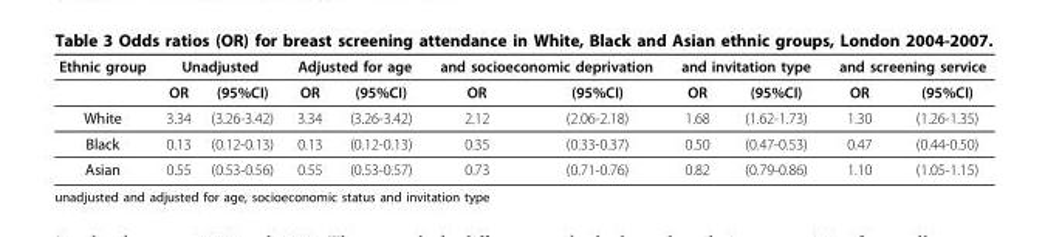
<table><thead><tr><td rowspan="2">Ethnic group</td><td colspan="2">Unadjusted</td><td colspan="2">Adjusted for age</td><td colspan="2">and socioeconomic deprivation</td><td colspan="2">and invitation type</td><td colspan="2">and screening service</td></tr><tr><td>OR</td><td>(95%CI)</td><td>OR</td><td>(95%CI)</td><td>OR</td><td>(95%CI)</td><td>OR</td><td>(95%CI)</td><td>OR</td><td>(95%CI)</td></tr></thead><tbody><tr><td>White</td><td>3.34</td><td>(3.26-3.42)</td><td>3.34</td><td>(3.26-3.42)</td><td>2.12</td><td>(2.06-2.18)</td><td>1.68</td><td>(1.62-1.73)</td><td>1.30</td><td>(1.26-1.35)</td></tr><tr><td>Black</td><td>0.13</td><td>(0.12-0.13)</td><td>0.13</td><td>(0.12-0.13)</td><td>0.35</td><td>(0.33-0.37)</td><td>0.50</td><td>(0.47-0.53)</td><td>0.47</td><td>(0.44-0.50)</td></tr><tr><td>Asian</td><td>0.55</td><td>(0.53-0.56)</td><td>0.55</td><td>(0.53-0.57)</td><td>0.73</td><td>(0.71-0.76)</td><td>0.82</td><td>(0.79-0.86)</td><td>1.10</td><td>(1.05-1.15)</td></tr></tbody></table>